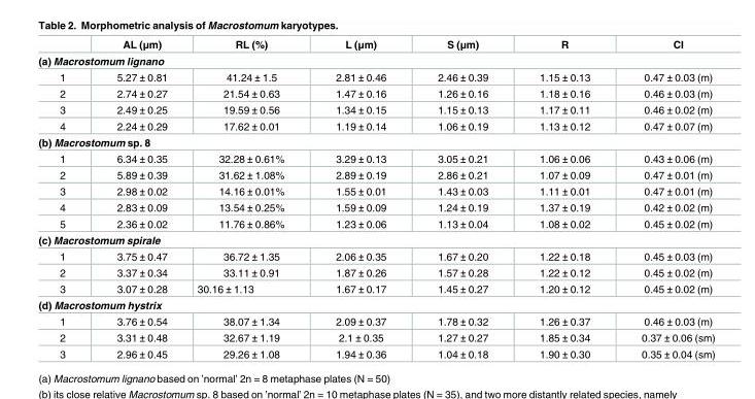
<table><thead><tr><td></td><td>AL (μm)</td><td>RL (%)</td><td>L (μm)</td><td>S (μm)</td><td>R</td><td>CI</td></tr></thead><tbody><tr><td colspan="7">(a) Macrostomum lignano</td></tr><tr><td>1</td><td>5.27 ± 0.81</td><td>41.24 ± 1.5</td><td>2.81 ± 0.46</td><td>2.46 ± 0.39</td><td>1.15 ± 0.13</td><td>0.47 ± 0.03 (m)</td></tr><tr><td>2</td><td>2.74 ± 0.27</td><td>21.54 ± 0.63</td><td>1.47 ± 0.16</td><td>1.26 ± 0.16</td><td>1.18 ± 0.16</td><td>0.46 ± 0.03 (m)</td></tr><tr><td>3</td><td>2.49 ± 0.25</td><td>19.59 ± 0.56</td><td>1.34 ± 0.15</td><td>1.15 ± 0.13</td><td>1.17 ± 0.11</td><td>0.46 ± 0.02 (m)</td></tr><tr><td>4</td><td>2.24 ± 0.29</td><td>17.62 ± 0.01</td><td>1.19 ± 0.14</td><td>1.06 ± 0.19</td><td>1.13 ± 0.12</td><td>0.47 ± 0.07 (m)</td></tr><tr><td colspan="7">(b) Macrostomum sp. 8</td></tr><tr><td>1</td><td>6.34 ± 0.35</td><td>32.28 ± 0.61%</td><td>3.29 ± 0.13</td><td>3.05 ± 0.21</td><td>1.06 ± 0.06</td><td>0.43 ± 0.06 (m)</td></tr><tr><td>2</td><td>5.89 ± 0.39</td><td>31.62 ± 1.08%</td><td>2.89 ± 0.19</td><td>2.86 ± 0.21</td><td>1.07 ± 0.09</td><td>0.47 ± 0.01 (m)</td></tr><tr><td>3</td><td>2.98 ± 0.02</td><td>14.16 ± 0.01%</td><td>1.55 ± 0.01</td><td>1.43 ± 0.03</td><td>1.11 ± 0.01</td><td>0.47 ± 0.01 (m)</td></tr><tr><td>4</td><td>2.83 ± 0.09</td><td>13.54 ± 0.25%</td><td>1.59 ± 0.09</td><td>1.24 ± 0.19</td><td>1.37 ± 0.19</td><td>0.42 ± 0.02 (m)</td></tr><tr><td>5</td><td>2.36 ± 0.02</td><td>11.76 ± 0.86%</td><td>1.23 ± 0.06</td><td>1.13 ± 0.04</td><td>1.08 ± 0.02</td><td>0.45 ± 0.02 (m)</td></tr><tr><td colspan="7">(c) Macrostomum spirale</td></tr><tr><td>1</td><td>3.75 ± 0.47</td><td>36.72 ± 1.35</td><td>2.06 ± 0.35</td><td>1.67 ± 0.20</td><td>1.22 ± 0.18</td><td>0.45 ± 0.03 (m)</td></tr><tr><td>2</td><td>3.37 ± 0.34</td><td>33.11 ± 0.91</td><td>1.87 ± 0.26</td><td>1.57 ± 0.28</td><td>1.22 ± 0.12</td><td>0.45 ± 0.02 (m)</td></tr><tr><td>3</td><td>3.07 ± 0.28</td><td>30.16 ± 1.13</td><td>1.67 ± 0.17</td><td>1.45 ± 0.27</td><td>1.20 ± 0.12</td><td>0.45 ± 0.02 (m)</td></tr><tr><td colspan="7">(d) Macrostomum hystrix</td></tr><tr><td>1</td><td>3.76 ± 0.54</td><td>38.07 ± 1.34</td><td>2.09 ± 0.37</td><td>1.78 ± 0.32</td><td>1.26 ± 0.37</td><td>0.46 ± 0.03 (m)</td></tr><tr><td>2</td><td>3.31 ± 0.48</td><td>32.67 ± 1.19</td><td>2.1 ± 0.35</td><td>1.27 ± 0.27</td><td>1.85 ± 0.34</td><td>0.37 ± 0.06 (sm)</td></tr><tr><td>3</td><td>2.96 ± 0.45</td><td>29.26 ± 1.08</td><td>1.94 ± 0.36</td><td>1.04 ± 0.18</td><td>1.90 ± 0.30</td><td>0.35 ± 0.04 (sm)</td></tr></tbody></table>